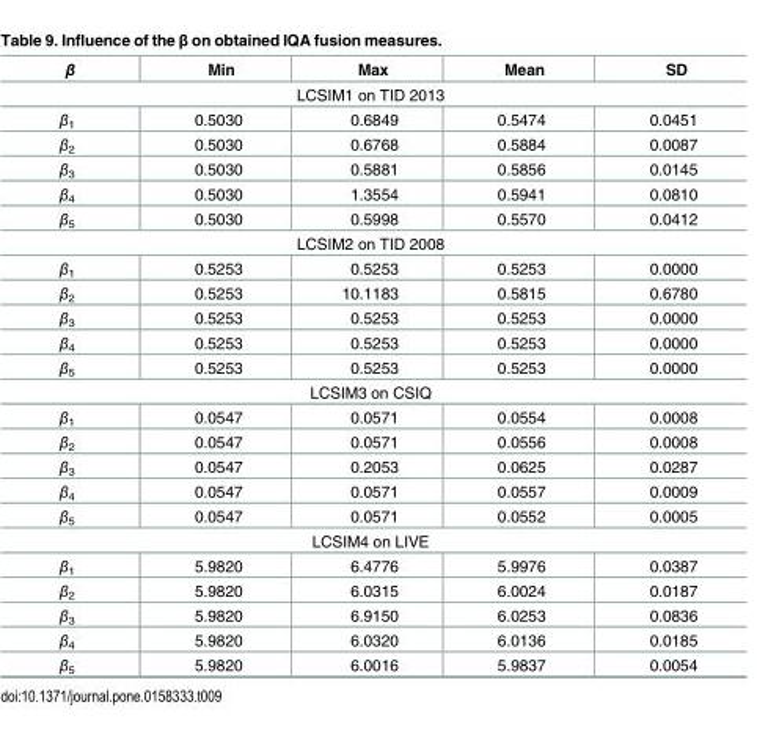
<table><thead><tr><td>β</td><td>Min</td><td>Max</td><td>Mean</td><td>SD</td></tr></thead><tbody><tr><td colspan="5">LCSIM1 on TID 2013</td></tr><tr><td>β<sub>1</sub></td><td>0.5030</td><td>0.6849</td><td>0.5474</td><td>0.0451</td></tr><tr><td>β<sub>2</sub></td><td>0.5030</td><td>0.6768</td><td>0.5884</td><td>0.0087</td></tr><tr><td>β<sub>3</sub></td><td>0.5030</td><td>0.5881</td><td>0.5856</td><td>0.0145</td></tr><tr><td>β<sub>4</sub></td><td>0.5030</td><td>1.3554</td><td>0.5941</td><td>0.0810</td></tr><tr><td>β<sub>5</sub></td><td>0.5030</td><td>0.5998</td><td>0.5570</td><td>0.0412</td></tr><tr><td colspan="5">LCSIM2 on TID 2008</td></tr><tr><td>β<sub>1</sub></td><td>0.5253</td><td>0.5253</td><td>0.5253</td><td>0.0000</td></tr><tr><td>β<sub>2</sub></td><td>0.5253</td><td>10.1183</td><td>0.5815</td><td>0.6780</td></tr><tr><td>β<sub>3</sub></td><td>0.5253</td><td>0.5253</td><td>0.5253</td><td>0.0000</td></tr><tr><td>β<sub>4</sub></td><td>0.5253</td><td>0.5253</td><td>0.5253</td><td>0.0000</td></tr><tr><td>β<sub>5</sub></td><td>0.5253</td><td>0.5253</td><td>0.5253</td><td>0.0000</td></tr><tr><td colspan="5">LCSIM3 on CSIQ</td></tr><tr><td>β<sub>1</sub></td><td>0.0547</td><td>0.0571</td><td>0.0554</td><td>0.0008</td></tr><tr><td>β<sub>2</sub></td><td>0.0547</td><td>0.0571</td><td>0.0556</td><td>0.0008</td></tr><tr><td>β<sub>3</sub></td><td>0.0547</td><td>0.2053</td><td>0.0625</td><td>0.0287</td></tr><tr><td>β<sub>4</sub></td><td>0.0547</td><td>0.0571</td><td>0.0557</td><td>0.0009</td></tr><tr><td>β<sub>5</sub></td><td>0.0547</td><td>0.0571</td><td>0.0552</td><td>0.0005</td></tr><tr><td colspan="5">LCSIM4 on LIVE</td></tr><tr><td>β<sub>1</sub></td><td>5.9820</td><td>6.4776</td><td>5.9976</td><td>0.0387</td></tr><tr><td>β<sub>2</sub></td><td>5.9820</td><td>6.0315</td><td>6.0024</td><td>0.0187</td></tr><tr><td>β<sub>3</sub></td><td>5.9820</td><td>6.9150</td><td>6.0253</td><td>0.0836</td></tr><tr><td>β<sub>4</sub></td><td>5.9820</td><td>6.0320</td><td>6.0136</td><td>0.0185</td></tr><tr><td>β<sub>5</sub></td><td>5.9820</td><td>6.0016</td><td>5.9837</td><td>0.0054</td></tr></tbody></table>